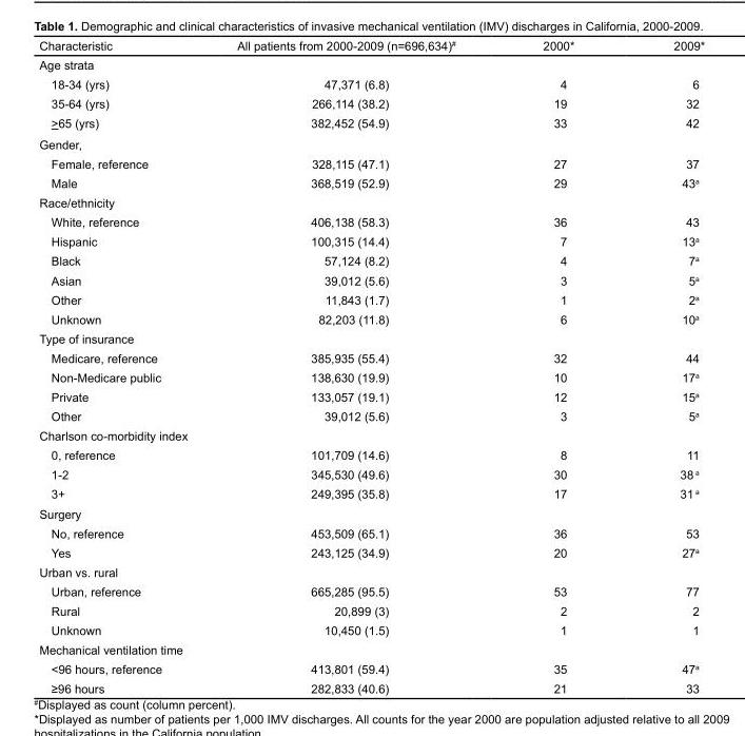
<table><thead><tr><td>Characteristic</td><td>All patients from 2000-2009 (n=696,634)#</td><td>2000*</td><td>2009*</td></tr></thead><tbody><tr><td colspan="4">Age strata</td></tr><tr><td>18-34 (yrs)</td><td>47,371 (6.8)</td><td>4</td><td>6</td></tr><tr><td>35-64 (yrs)</td><td>266,114 (38.2)</td><td>19</td><td>32</td></tr><tr><td>&gt;65 (yrs)</td><td>382,452 (54.9)</td><td>33</td><td>42</td></tr><tr><td colspan="4">Gender,</td></tr><tr><td>Female, reference</td><td>328,115 (47.1)</td><td>27</td><td>37</td></tr><tr><td>Male</td><td>368,519 (52.9)</td><td>29</td><td>43<sup>a</sup></td></tr><tr><td colspan="4">Race/ethnicity</td></tr><tr><td>White, reference</td><td>406,138 (58.3)</td><td>36</td><td>43</td></tr><tr><td>Hispanic</td><td>100,315 (14.4)</td><td>7</td><td>13<sup>a</sup></td></tr><tr><td>Black</td><td>57,124 (8.2)</td><td>4</td><td>7<sup>a</sup></td></tr><tr><td>Asian</td><td>39,012 (5.6)</td><td>3</td><td>5<sup>a</sup></td></tr><tr><td>Other</td><td>11,843 (1.7)</td><td>1</td><td>2<sup>a</sup></td></tr><tr><td>Unknown</td><td>82,203 (11.8)</td><td>6</td><td>10<sup>a</sup></td></tr><tr><td colspan="4">Type of insurance</td></tr><tr><td>Medicare, reference</td><td>385,935 (55.4)</td><td>32</td><td>44</td></tr><tr><td>Non-Medicare public</td><td>138,630 (19.9)</td><td>10</td><td>17<sup>a</sup></td></tr><tr><td>Private</td><td>133,057 (19.1)</td><td>12</td><td>15<sup>a</sup></td></tr><tr><td>Other</td><td>39,012 (5.6)</td><td>3</td><td>5<sup>a</sup></td></tr><tr><td colspan="4">Charlson co-morbidity index</td></tr><tr><td>0, reference</td><td>101,709 (14.6)</td><td>8</td><td>11</td></tr><tr><td>1-2</td><td>345,530 (49.6)</td><td>30</td><td>38 a</td></tr><tr><td>3+</td><td>249,395 (35.8)</td><td>17</td><td>31 a</td></tr><tr><td colspan="4">Surgery</td></tr><tr><td>No, reference</td><td>453,509 (65.1)</td><td>36</td><td>53</td></tr><tr><td>Yes</td><td>243,125 (34.9)</td><td>20</td><td>27<sup>a</sup></td></tr><tr><td colspan="4">Urban vs. rural</td></tr><tr><td>Urban, reference</td><td>665,285 (95.5)</td><td>53</td><td>77</td></tr><tr><td>Rural</td><td>20,899 (3)</td><td>2</td><td>2</td></tr><tr><td>Unknown</td><td>10,450 (1.5)</td><td>1</td><td>1</td></tr><tr><td colspan="4">Mechanical ventilation time</td></tr><tr><td>&lt;96 hours, reference</td><td>413,801 (59.4)</td><td>35</td><td>47<sup>a</sup></td></tr><tr><td>≥96 hours</td><td>282,833 (40.6)</td><td>21</td><td>33</td></tr></tbody></table>